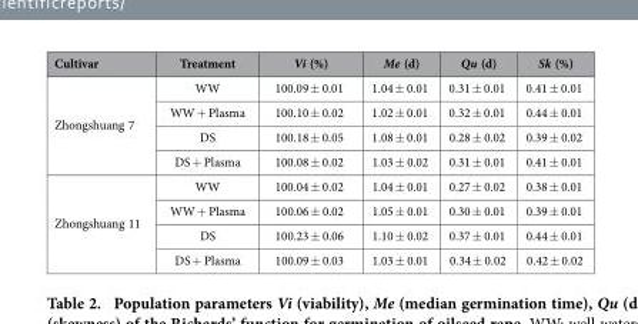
<table><thead><tr><td>Cultivar</td><td>Treatment</td><td>Vi (%)</td><td>Me (d)</td><td>Qu (d)</td><td>Sk (%)</td></tr></thead><tbody><tr><td rowspan="4">Zhongshuang 7</td><td>WW</td><td>100.09 ± 0.01</td><td>1.04 ± 0.01</td><td>0.31 ± 0.01</td><td>0.41 ± 0.01</td></tr><tr><td>WW + Plasma</td><td>100.10 ± 0.02</td><td>1.02 ± 0.01</td><td>0.32 ± 0.01</td><td>0.44 ± 0.01</td></tr><tr><td>DS</td><td>100.18 ± 0.05</td><td>1.08 ± 0.01</td><td>0.28 ± 0.02</td><td>0.39 ± 0.02</td></tr><tr><td>DS + Plasma</td><td>100.08 ± 0.02</td><td>1.03 ± 0.02</td><td>0.31 ± 0.01</td><td>0.41 ± 0.01</td></tr><tr><td rowspan="4">Zhongshuang 11</td><td>WW</td><td>100.04 ± 0.02</td><td>1.04 ± 0.01</td><td>0.27 ± 0.02</td><td>0.38 ± 0.01</td></tr><tr><td>WW + Plasma</td><td>100.06 ± 0.02</td><td>1.05 ± 0.01</td><td>0.30 ± 0.01</td><td>0.39 ± 0.01</td></tr><tr><td>DS</td><td>100.23 ± 0.06</td><td>1.10 ± 0.02</td><td>0.37 ± 0.01</td><td>0.44 ± 0.01</td></tr><tr><td>DS + Plasma</td><td>100.09 ± 0.03</td><td>1.03 ± 0.01</td><td>0.34 ± 0.02</td><td>0.42 ± 0.02</td></tr></tbody></table>